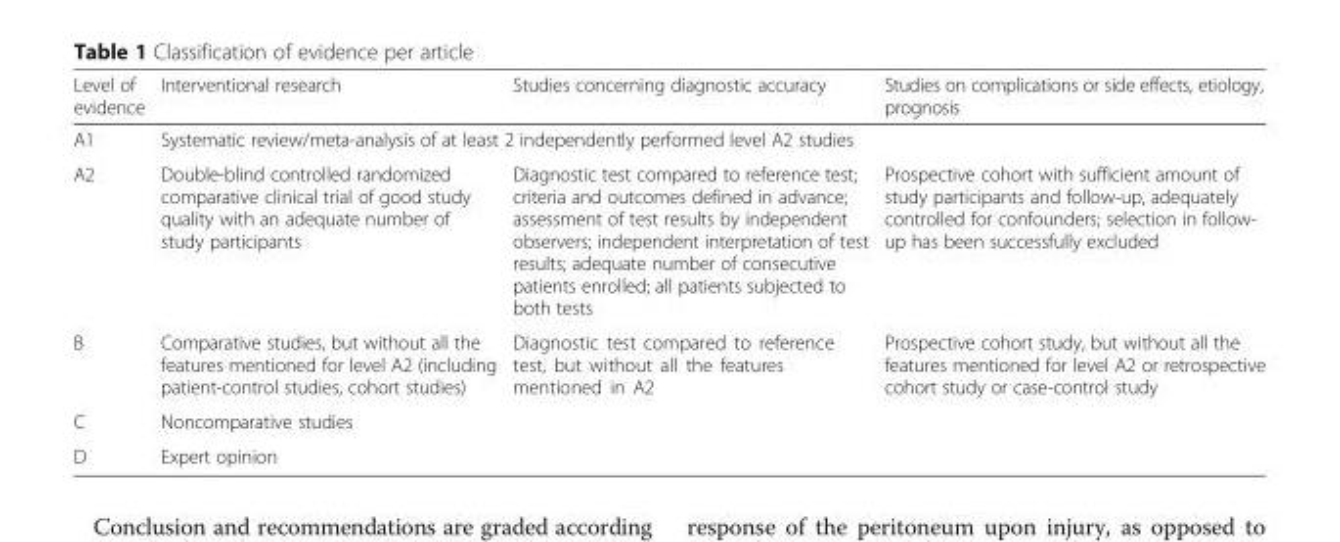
<table><thead><tr><td>Level of evidence</td><td>Interventional research</td><td>Studies concerning diagnostic accuracy</td><td>Studies on complications or side effects, etiology, prognosis</td></tr></thead><tbody><tr><td>A1</td><td colspan="3">Systematic review/meta-analysis of at least 2 independently performed level A2 studies</td></tr><tr><td>A2</td><td>Double-blind controlled randomized comparative clinical trial of good study quality with an adequate number of study participants</td><td>Diagnostic test compared to reference test; criteria and outcomes defined in advance; assessment of test results by independent observers; independent interpretation of test results; adequate number of consecutive patients enrolled; all patients subjected to both tests</td><td>Prospective cohort with sufficient amount of study participants and follow-up, adequately controlled for confounders; selection in follow- up has been successfully excluded</td></tr><tr><td>B</td><td>Comparative studies, but without all the features mentioned for level A2 (including patient-control studies, cohort studies)</td><td>Diagnostic test compared to reference test, but without all the features mentioned in A2</td><td>Prospective cohort study, but without all the features mentioned for level A2 or retrospective cohort study or case-control study</td></tr><tr><td>C</td><td colspan="3">Noncomparative studies</td></tr><tr><td>D</td><td colspan="3">Expert opinion</td></tr></tbody></table>